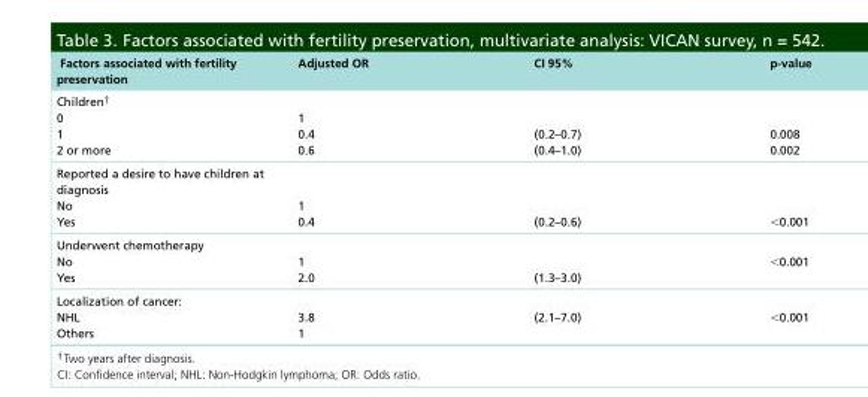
<table><thead><tr><td>Factors associated with fertility preservation</td><td>Adjusted OR</td><td>CI 95%</td><td>p-value</td></tr></thead><tbody><tr><td>Children<sup>†</sup> 0 1 2 or more</td><td>1 0.4 0.6</td><td>(0.2–0.7) (0.4–1.0)</td><td>0.008 0.002</td></tr><tr><td>Reported a desire to have children at diagnosis No Yes</td><td>1 0.4</td><td>(0.2–0.6)</td><td>&lt;0.001</td></tr><tr><td>Underwent chemotherapy No Yes</td><td>1 2.0</td><td>(1.3–3.0)</td><td>&lt;0.001</td></tr><tr><td>Localization of cancer: NHL Others</td><td>3.8 1</td><td>(2.1–7.0)</td><td>&lt;0.001</td></tr></tbody></table>